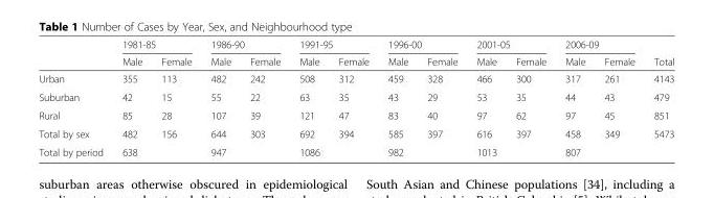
<table><thead><tr><td rowspan="2"></td><td colspan="2">1981-85</td><td colspan="2">1986-90</td><td colspan="2">1991-95</td><td colspan="2">1996-00</td><td colspan="2">2001-05</td><td colspan="2">2006-09</td><td rowspan="2">Total</td></tr><tr><td>Male</td><td>Female</td><td>Male</td><td>Female</td><td>Male</td><td>Female</td><td>Male</td><td>Female</td><td>Male</td><td>Female</td><td>Male</td><td>Female</td></tr></thead><tbody><tr><td>Urban</td><td>355</td><td>113</td><td>482</td><td>242</td><td>508</td><td>312</td><td>459</td><td>328</td><td>466</td><td>300</td><td>317</td><td>261</td><td>4143</td></tr><tr><td>Suburban</td><td>42</td><td>15</td><td>55</td><td>22</td><td>63</td><td>35</td><td>43</td><td>29</td><td>53</td><td>35</td><td>44</td><td>43</td><td>479</td></tr><tr><td>Rural</td><td>85</td><td>28</td><td>107</td><td>39</td><td>121</td><td>47</td><td>83</td><td>40</td><td>97</td><td>62</td><td>97</td><td>45</td><td>851</td></tr><tr><td>Total by sex</td><td>482</td><td>156</td><td>644</td><td>303</td><td>692</td><td>394</td><td>585</td><td>397</td><td>616</td><td>397</td><td>458</td><td>349</td><td>5473</td></tr><tr><td>Total by period</td><td colspan="2">638</td><td colspan="2">947</td><td colspan="2">1086</td><td colspan="2">982</td><td colspan="2">1013</td><td colspan="2">807</td><td></td></tr></tbody></table>